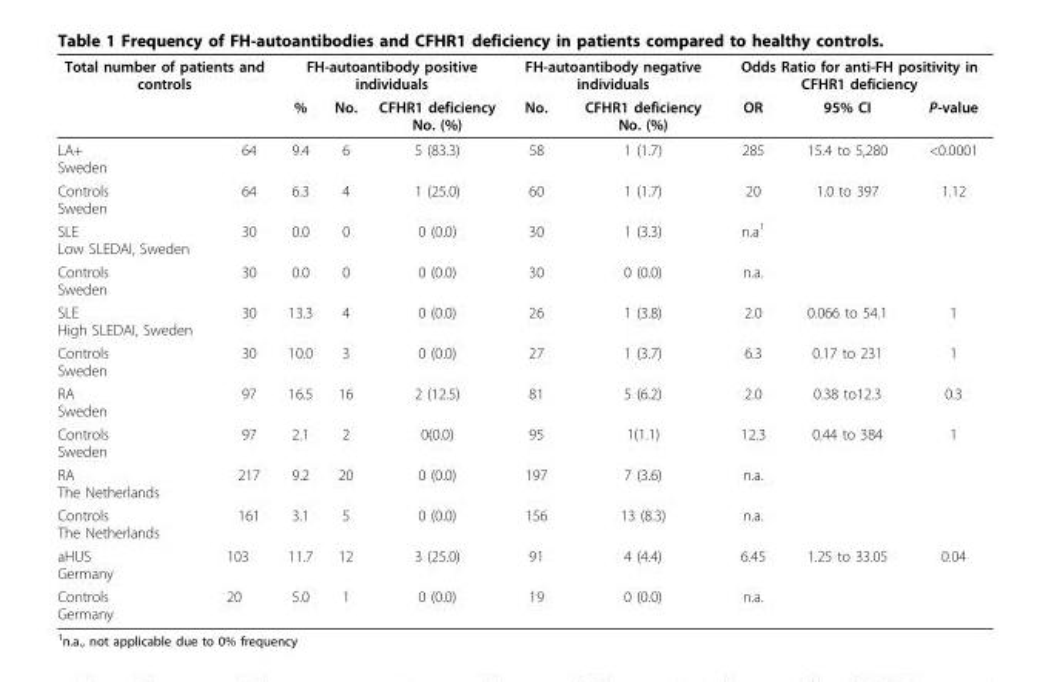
<table><thead><tr><td colspan="2">Total number of patients and controls</td><td colspan="3">FH-autoantibody positive individuals</td><td colspan="2">FH-autoantibody negative individuals</td><td colspan="3">Odds Ratio for anti-FH positivity in CFHR1 deficiency</td></tr><tr><td></td><td></td><td>%</td><td>No.</td><td>CFHR1 deficiency No. (%)</td><td>No.</td><td>CFHR1 deficiency No. (%)</td><td>OR</td><td>95% CI</td><td>P-value</td></tr></thead><tbody><tr><td>LA+ Sweden</td><td>64</td><td>9.4</td><td>6</td><td>5 (83.3)</td><td>58</td><td>1 (1.7)</td><td>285</td><td>15.4 to 5,280</td><td>&lt;0.0001</td></tr><tr><td>Controls Sweden</td><td>64</td><td>6.3</td><td>4</td><td>1 (25.0)</td><td>60</td><td>1 (1.7)</td><td>20</td><td>1.0 to 397</td><td>1.12</td></tr><tr><td>SLE Low SLEDAI, Sweden</td><td>30</td><td>0.0</td><td>0</td><td>0 (0.0)</td><td>30</td><td>1 (3.3)</td><td>n.a<sup>1</sup></td><td></td><td></td></tr><tr><td>Controls Sweden</td><td>30</td><td>0.0</td><td>0</td><td>0 (0.0)</td><td>30</td><td>0 (0.0)</td><td>n.a.</td><td></td><td></td></tr><tr><td>SLE High SLEDAI, Sweden</td><td>30</td><td>13.3</td><td>4</td><td>0 (0.0)</td><td>26</td><td>1 (3.8)</td><td>2.0</td><td>0.066 to 54.1</td><td>1</td></tr><tr><td>Controls Sweden</td><td>30</td><td>10.0</td><td>3</td><td>0 (0.0)</td><td>27</td><td>1 (3.7)</td><td>6.3</td><td>0.17 to 231</td><td>1</td></tr><tr><td>RA Sweden</td><td>97</td><td>16.5</td><td>16</td><td>2 (12.5)</td><td>81</td><td>5 (6.2)</td><td>2.0</td><td>0.38 to12.3</td><td>0.3</td></tr><tr><td>Controls Sweden</td><td>97</td><td>2.1</td><td>2</td><td>0(0.0)</td><td>95</td><td>1(1.1)</td><td>12.3</td><td>0.44 to 384</td><td>1</td></tr><tr><td>RA The Netherlands</td><td>217</td><td>9.2</td><td>20</td><td>0 (0.0)</td><td>197</td><td>7 (3.6)</td><td>n.a.</td><td></td><td></td></tr><tr><td>Controls The Netherlands</td><td>161</td><td>3.1</td><td>5</td><td>0 (0.0)</td><td>156</td><td>13 (8.3)</td><td>n.a.</td><td></td><td></td></tr><tr><td>aHUS Germany</td><td>103</td><td>11.7</td><td>12</td><td>3 (25.0)</td><td>91</td><td>4 (4.4)</td><td>6.45</td><td>1.25 to 33.05</td><td>0.04</td></tr><tr><td>Controls Germany</td><td>20</td><td>5.0</td><td>1</td><td>0 (0.0)</td><td>19</td><td>0 (0.0)</td><td>n.a.</td><td></td><td></td></tr></tbody></table>